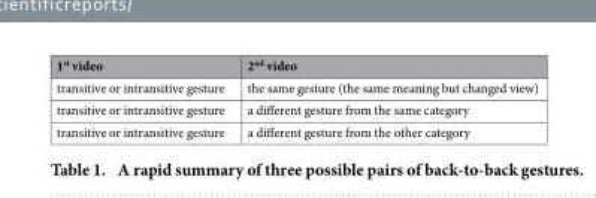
<table><thead><tr><td>1<sup>st</sup> video</td><td>2<sup>nd</sup> video</td></tr></thead><tbody><tr><td>transitive or intransitive gesture</td><td>the same gesture (the same meaning but changed view)</td></tr><tr><td>transitive or intransitive gesture</td><td>a different gesture from the same category</td></tr><tr><td>transitive or intransitive gesture</td><td>a different gesture from the other category</td></tr></tbody></table>